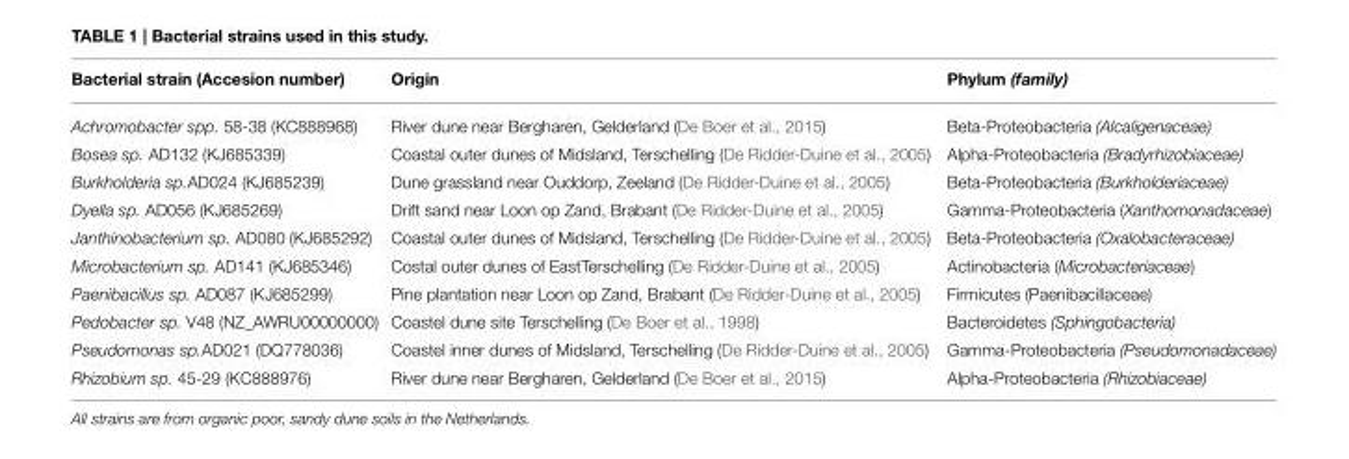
<table><thead><tr><td>Bacterial strain (Accesion number)</td><td>Origin</td><td>Phylum (family)</td></tr></thead><tbody><tr><td>Achromobacter spp. 58-38 (KC888968)</td><td>River dune near Bergharen, Gelderland (De Boer et al., 2015)</td><td>Beta-Proteobacteria (Alcaligenaceae)</td></tr><tr><td>Bosea sp. AD132 (KJ685339)</td><td>Coastal outer dunes of Midsland, Terschelling (De Ridder-Duine et al., 2005)</td><td>Alpha-Proteobacteria (Bradyrhizobiaceae)</td></tr><tr><td>Burkholderia sp.AD024 (KJ685239)</td><td>Dune grassland near Ouddorp, Zeeland (De Ridder-Duine et al., 2005)</td><td>Beta-Proteobacteria (Burkholderiaceae)</td></tr><tr><td>Dyella sp. AD056 (KJ685269)</td><td>Drift sand near Loon op Zand, Brabant (De Ridder-Duine et al., 2005)</td><td>Gamma-Proteobacteria (Xanthomonadaceae)</td></tr><tr><td>Janthinobacterium sp. AD080 (KJ685292)</td><td>Coastal outer dunes of Midsland, Terschelling (De Ridder-Duine et al., 2005)</td><td>Beta-Proteobacteria (Oxalobacteraceae)</td></tr><tr><td>Microbacterium sp. AD141 (KJ685346)</td><td>Costal outer dunes of EastTerschelling (De Ridder-Duine et al., 2005)</td><td>Actinobacteria (Microbacteriaceae)</td></tr><tr><td>Paenibacillus sp. AD087 (KJ685299)</td><td>Pine plantation near Loon op Zand, Brabant (De Ridder-Duine et al., 2005)</td><td>Firmicutes (Paenibacillaceae)</td></tr><tr><td>Pedobacter sp. V48 (NZ_AWRU00000000)</td><td>Coastel dune site Terschelling (De Boer et al., 1998)</td><td>Bacteroidetes (Sphingobacteria)</td></tr><tr><td>Pseudomonas sp.AD021 (DQ778036)</td><td>Coastel inner dunes of Midsland, Terschelling (De Ridder-Duine et al., 2005)</td><td>Gamma-Proteobacteria (Pseudomonadaceae)</td></tr><tr><td>Rhizobium sp. 45-29 (KC888976)</td><td>River dune near Bergharen, Gelderland (De Boer et al., 2015)</td><td>Alpha-Proteobacteria (Rhizobiaceae)</td></tr></tbody></table>